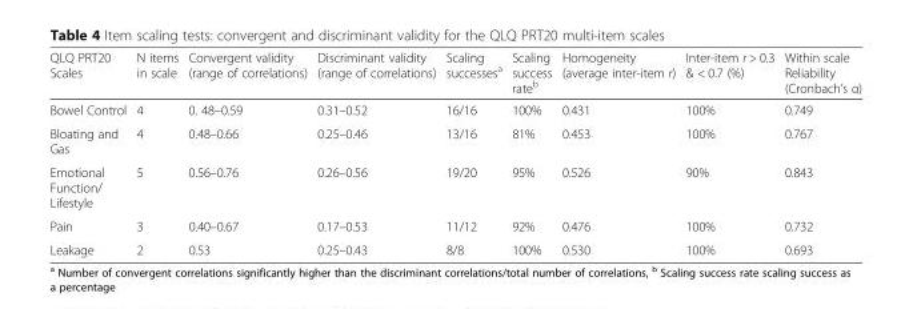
<table><thead><tr><td>QLQ PRT20 Scales</td><td>N items in scale</td><td>Convergent validity (range of correlations)</td><td>Discriminant validity (range of correlations)</td><td>Scaling successes<sup>a</sup></td><td>Scaling success rate<sup>b</sup></td><td>Homogeneity (average inter-item r)</td><td>Inter-item r &gt; 0.3 &amp; &lt; 0.7 (%)</td><td>Within scale Reliability (Cronbach’s α)</td></tr></thead><tbody><tr><td>Bowel Control</td><td>4</td><td>0. 48–0.59</td><td>0.31–0.52</td><td>16/16</td><td>100%</td><td>0.431</td><td>100%</td><td>0.749</td></tr><tr><td>Bloating and Gas</td><td>4</td><td>0.48–0.66</td><td>0.25–0.46</td><td>13/16</td><td>81%</td><td>0.453</td><td>100%</td><td>0.767</td></tr><tr><td>Emotional Function/ Lifestyle</td><td>5</td><td>0.56–0.76</td><td>0.26–0.56</td><td>19/20</td><td>95%</td><td>0.526</td><td>90%</td><td>0.843</td></tr><tr><td>Pain</td><td>3</td><td>0.40–0.67</td><td>0.17–0.53</td><td>11/12</td><td>92%</td><td>0.476</td><td>100%</td><td>0.732</td></tr><tr><td>Leakage</td><td>2</td><td>0.53</td><td>0.25–0.43</td><td>8/8</td><td>100%</td><td>0.530</td><td>100%</td><td>0.693</td></tr></tbody></table>